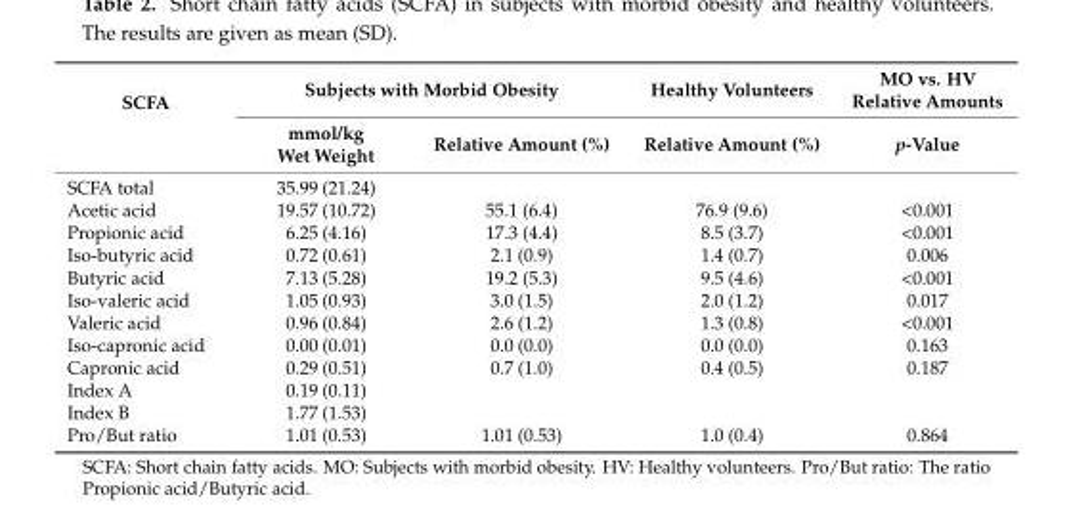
<table><thead><tr><td rowspan="2">SCFA</td><td colspan="2">Subjects with Morbid Obesity</td><td rowspan="2">Healthy Volunteers Relative Amount (%)</td><td rowspan="2">MO vs. HV Relative Amounts p-Value</td></tr><tr><td>mmol/kg Wet Weight</td><td>Relative Amount (%)</td></tr></thead><tbody><tr><td>SCFA total</td><td>35.99 (21.24)</td><td></td><td></td><td></td></tr><tr><td>Acetic acid</td><td>19.57 (10.72)</td><td>55.1 (6.4)</td><td>76.9 (9.6)</td><td>&lt;0.001</td></tr><tr><td>Propionic acid</td><td>6.25 (4.16)</td><td>17.3 (4.4)</td><td>8.5 (3.7)</td><td>&lt;0.001</td></tr><tr><td>Iso-butyric acid</td><td>0.72 (0.61)</td><td>2.1 (0.9)</td><td>1.4 (0.7)</td><td>0.006</td></tr><tr><td>Butyric acid</td><td>7.13 (5.28)</td><td>19.2 (5.3)</td><td>9.5 (4.6)</td><td>&lt;0.001</td></tr><tr><td>Iso-valeric acid</td><td>1.05 (0.93)</td><td>3.0 (1.5)</td><td>2.0 (1.2)</td><td>0.017</td></tr><tr><td>Valeric acid</td><td>0.96 (0.84)</td><td>2.6 (1.2)</td><td>1.3 (0.8)</td><td>&lt;0.001</td></tr><tr><td>Iso-capronic acid</td><td>0.00 (0.01)</td><td>0.0 (0.0)</td><td>0.0 (0.0)</td><td>0.163</td></tr><tr><td>Capronic acid</td><td>0.29 (0.51)</td><td>0.7 (1.0)</td><td>0.4 (0.5)</td><td>0.187</td></tr><tr><td>Index A</td><td>0.19 (0.11)</td><td></td><td></td><td></td></tr><tr><td>Index B</td><td>1.77 (1.53)</td><td></td><td></td><td></td></tr><tr><td>Pro/But ratio</td><td>1.01 (0.53)</td><td>1.01 (0.53)</td><td>1.0 (0.4)</td><td>0.864</td></tr></tbody></table>